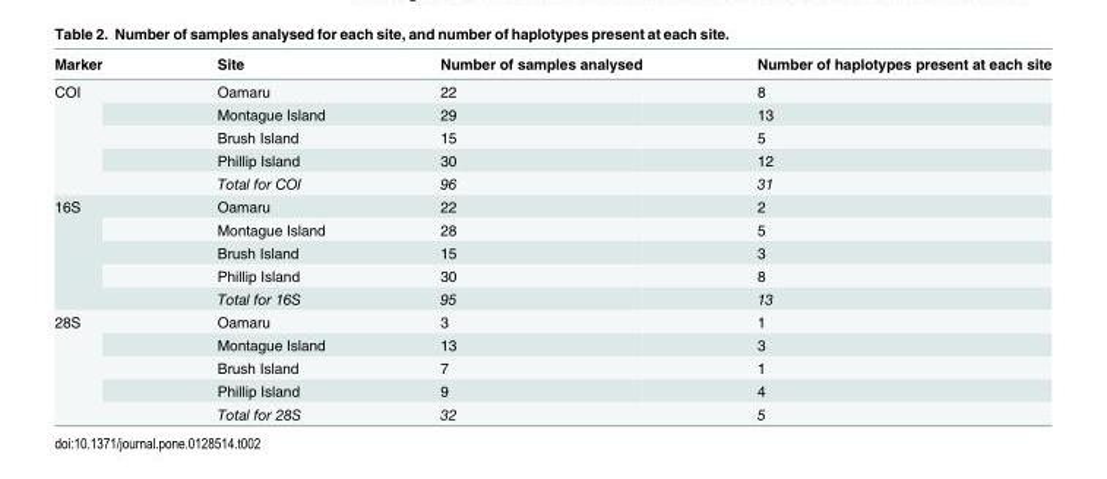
<table><thead><tr><td>Marker</td><td>Site</td><td>Number of samples analysed</td><td>Number of haplotypes present at each site</td></tr></thead><tbody><tr><td rowspan="5">COI</td><td>Oamaru</td><td>22</td><td>8</td></tr><tr><td>Montague Island</td><td>29</td><td>13</td></tr><tr><td>Brush Island</td><td>15</td><td>5</td></tr><tr><td>Phillip Island</td><td>30</td><td>12</td></tr><tr><td>Total for COI</td><td>96</td><td>31</td></tr><tr><td rowspan="5">16S</td><td>Oamaru</td><td>22</td><td>2</td></tr><tr><td>Montague Island</td><td>28</td><td>5</td></tr><tr><td>Brush Island</td><td>15</td><td>3</td></tr><tr><td>Phillip Island</td><td>30</td><td>8</td></tr><tr><td>Total for 16S</td><td>95</td><td>13</td></tr><tr><td rowspan="5">28S</td><td>Oamaru</td><td>3</td><td>1</td></tr><tr><td>Montague Island</td><td>13</td><td>3</td></tr><tr><td>Brush Island</td><td>7</td><td>1</td></tr><tr><td>Phillip Island</td><td>9</td><td>4</td></tr><tr><td>Total for 28S</td><td>32</td><td>5</td></tr></tbody></table>